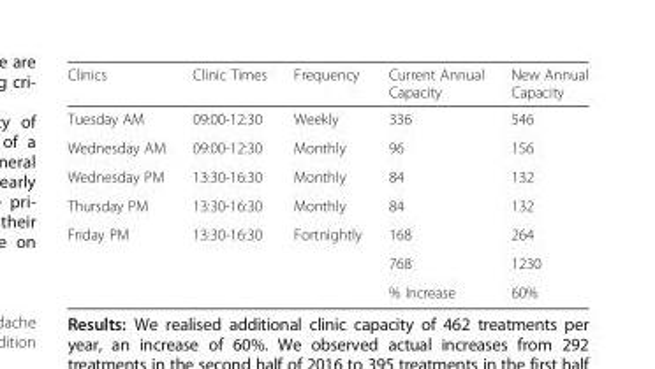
<table><thead><tr><td>Clinics</td><td>Clinic Times</td><td>Frequency</td><td>Current Annual Capacity</td><td>New Annual Capacity</td></tr></thead><tbody><tr><td>Tuesday AM</td><td>09:00-12:30</td><td>Weekly</td><td>336</td><td>546</td></tr><tr><td>Wednesday AM</td><td>09:00-12:30</td><td>Monthly</td><td>96</td><td>156</td></tr><tr><td>Wednesday PM</td><td>13:30-16:30</td><td>Monthly</td><td>84</td><td>132</td></tr><tr><td>Thursday PM</td><td>13:30-16:30</td><td>Monthly</td><td>84</td><td>132</td></tr><tr><td rowspan="3">Friday PM</td><td>13:30-16:30</td><td>Fortnightly</td><td>168</td><td>264</td></tr><tr><td></td><td></td><td>768</td><td>1230</td></tr><tr><td></td><td></td><td>% Increase</td><td>60%</td></tr></tbody></table>